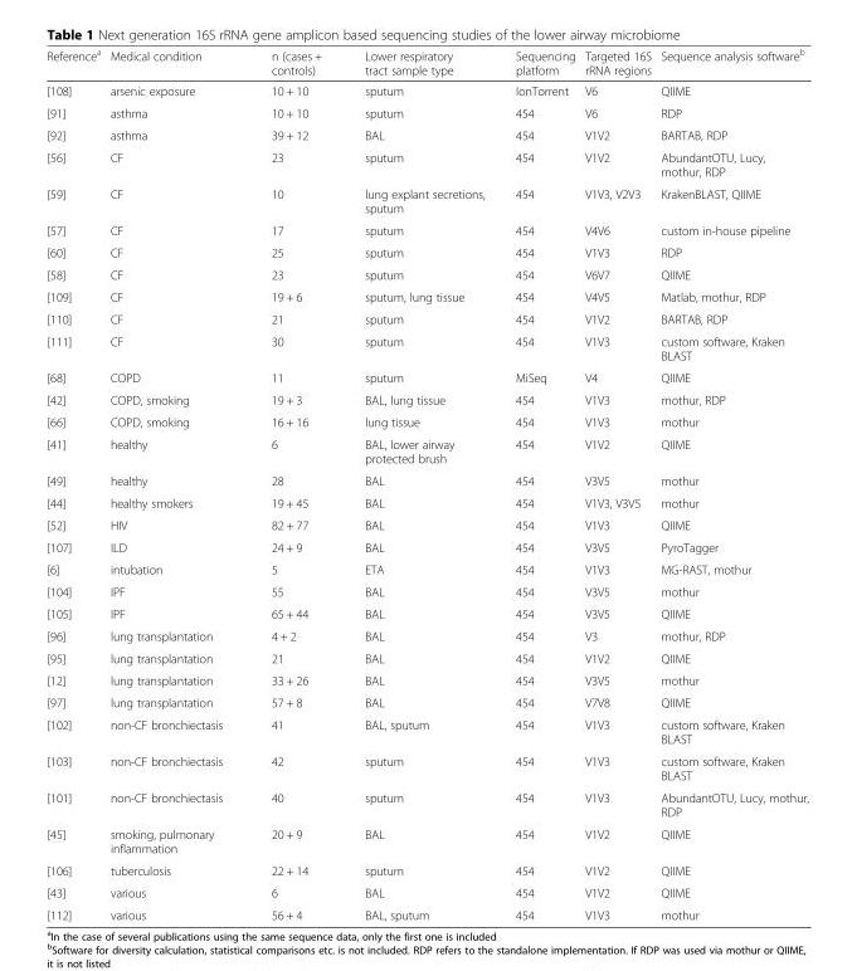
<table><thead><tr><td>Reference<sup>a</sup></td><td>Medical condition</td><td>n (cases + controls)</td><td>Lower respiratory tract sample type</td><td>Sequencing platform</td><td>Targeted 16S rRNA regions</td><td>Sequence analysis software<sup>b</sup></td></tr></thead><tbody><tr><td>[108]</td><td>arsenic exposure</td><td>10 + 10</td><td>sputum</td><td>IonTorrent</td><td>V6</td><td>QIIME</td></tr><tr><td>[91]</td><td>asthma</td><td>10 + 10</td><td>sputum</td><td>454</td><td>V6</td><td>RDP</td></tr><tr><td>[92]</td><td>asthma</td><td>39 + 12</td><td>BAL</td><td>454</td><td>V1V2</td><td>BARTAB, RDP</td></tr><tr><td>[56]</td><td>CF</td><td>23</td><td>sputum</td><td>454</td><td>V1V2</td><td>AbundantOTU, Lucy, mothur, RDP</td></tr><tr><td>[59]</td><td>CF</td><td>10</td><td>lung explant secretions, sputum</td><td>454</td><td>V1V3, V2V3</td><td>KrakenBLAST, QIIME</td></tr><tr><td>[57]</td><td>CF</td><td>17</td><td>sputum</td><td>454</td><td>V4V6</td><td>custom in-house pipeline</td></tr><tr><td>[60]</td><td>CF</td><td>25</td><td>sputum</td><td>454</td><td>V1V3</td><td>RDP</td></tr><tr><td>[58]</td><td>CF</td><td>23</td><td>sputum</td><td>454</td><td>V6V7</td><td>QIIME</td></tr><tr><td>[109]</td><td>CF</td><td>19 + 6</td><td>sputum, lung tissue</td><td>454</td><td>V4V5</td><td>Matlab, mothur, RDP</td></tr><tr><td>[110]</td><td>CF</td><td>21</td><td>sputum</td><td>454</td><td>V1V2</td><td>BARTAB, RDP</td></tr><tr><td>[111]</td><td>CF</td><td>30</td><td>sputum</td><td>454</td><td>V1V3</td><td>custom software, Kraken BLAST</td></tr><tr><td>[68]</td><td>COPD</td><td>11</td><td>sputum</td><td>MiSeq</td><td>V4</td><td>QIIME</td></tr><tr><td>[42]</td><td>COPD, smoking</td><td>19 + 3</td><td>BAL, lung tissue</td><td>454</td><td>V1V3</td><td>mothur, RDP</td></tr><tr><td>[66]</td><td>COPD, smoking</td><td>16 + 16</td><td>lung tissue</td><td>454</td><td>V1V3</td><td>mothur</td></tr><tr><td>[41]</td><td>healthy</td><td>6</td><td>BAL, lower airway protected brush</td><td>454</td><td>V1V2</td><td>QIIME</td></tr><tr><td>[49]</td><td>healthy</td><td>28</td><td>BAL</td><td>454</td><td>V3V5</td><td>mothur</td></tr><tr><td>[44]</td><td>healthy smokers</td><td>19 + 45</td><td>BAL</td><td>454</td><td>V1V3, V3V5</td><td>mothur</td></tr><tr><td>[52]</td><td>HIV</td><td>82 + 77</td><td>BAL</td><td>454</td><td>V1V3</td><td>QIIME</td></tr><tr><td>[107]</td><td>ILD</td><td>24 + 9</td><td>BAL</td><td>454</td><td>V3V5</td><td>PyroTagger</td></tr><tr><td>[6]</td><td>intubation</td><td>5</td><td>ETA</td><td>454</td><td>V1V3</td><td>MG-RAST, mothur</td></tr><tr><td>[104]</td><td>IPF</td><td>55</td><td>BAL</td><td>454</td><td>V3V5</td><td>mothur</td></tr><tr><td>[105]</td><td>IPF</td><td>65 + 44</td><td>BAL</td><td>454</td><td>V3V5</td><td>QIIME</td></tr><tr><td>[96]</td><td>lung transplantation</td><td>4 + 2</td><td>BAL</td><td>454</td><td>V3</td><td>mothur, RDP</td></tr><tr><td>[95]</td><td>lung transplantation</td><td>21</td><td>BAL</td><td>454</td><td>V1V2</td><td>QIIME</td></tr><tr><td>[12]</td><td>lung transplantation</td><td>33 + 26</td><td>BAL</td><td>454</td><td>V3V5</td><td>mothur</td></tr><tr><td>[97]</td><td>lung transplantation</td><td>57 + 8</td><td>BAL</td><td>454</td><td>V7V8</td><td>QIIME</td></tr><tr><td>[102]</td><td>non-CF bronchiectasis</td><td>41</td><td>BAL, sputum</td><td>454</td><td>V1V3</td><td>custom software, Kraken BLAST</td></tr><tr><td>[103]</td><td>non-CF bronchiectasis</td><td>42</td><td>sputum</td><td>454</td><td>V1V3</td><td>custom software, Kraken BLAST</td></tr><tr><td>[101]</td><td>non-CF bronchiectasis</td><td>40</td><td>sputum</td><td>454</td><td>V1V3</td><td>AbundantOTU, Lucy, mothur, RDP</td></tr><tr><td>[45]</td><td>smoking, pulmonary inflammation</td><td>20 + 9</td><td>BAL</td><td>454</td><td>V1V2</td><td>QIIME</td></tr><tr><td>[106]</td><td>tuberculosis</td><td>22 + 14</td><td>sputum</td><td>454</td><td>V1V2</td><td>QIIME</td></tr><tr><td>[43]</td><td>various</td><td>6</td><td>BAL</td><td>454</td><td>V1V2</td><td>QIIME</td></tr><tr><td>[112]</td><td>various</td><td>56 + 4</td><td>BAL, sputum</td><td>454</td><td>V1V3</td><td>mothur</td></tr></tbody></table>